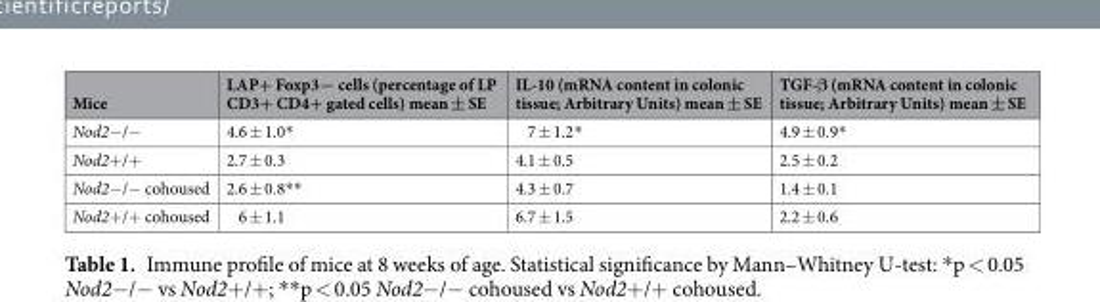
<table><thead><tr><td>Mice</td><td>LAP+ Foxp3− cells (percentage of LP CD3+ CD4+ gated cells) mean ± SE</td><td>IL-10 (mRNA content in colonic tissue; Arbitrary Units) mean ± SE</td><td>TGF-β (mRNA content in colonic tissue; Arbitrary Units) mean ± SE</td></tr></thead><tbody><tr><td>Nod2−/−</td><td>4.6 ± 1.0*</td><td>7 ± 1.2*</td><td>4.9 ± 0.9*</td></tr><tr><td>Nod2+/+</td><td>2.7 ± 0.3</td><td>4.1 ± 0.5</td><td>2.5 ± 0.2</td></tr><tr><td>Nod2−/− cohoused</td><td>2.6 ± 0.8**</td><td>4.3 ± 0.7</td><td>1.4 ± 0.1</td></tr><tr><td>Nod2+/+ cohoused</td><td>6 ± 1.1</td><td>6.7 ± 1.5</td><td>2.2 ± 0.6</td></tr></tbody></table>